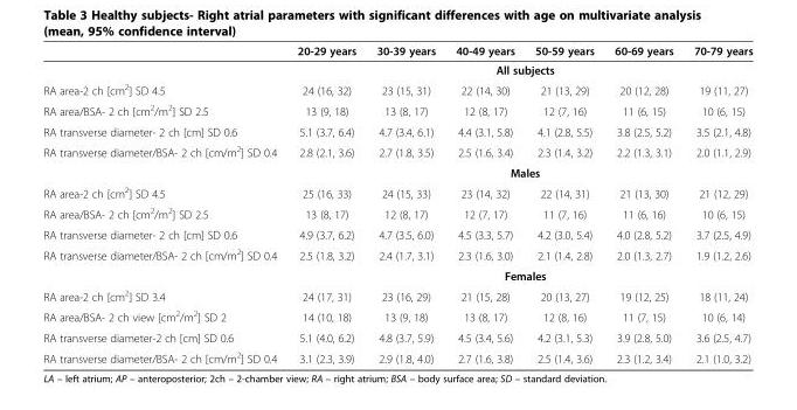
<table><thead><tr><td></td><td>20-29 years</td><td>30-39 years</td><td>40-49 years</td><td>50-59 years</td><td>60-69 years</td><td>70-79 years</td></tr></thead><tbody><tr><td></td><td colspan="6">All subjects</td></tr><tr><td>RA area-2 ch [cm<sup>2</sup>] SD 4.5</td><td>24 (16, 32)</td><td>23 (15, 31)</td><td>22 (14, 30)</td><td>21 (13, 29)</td><td>20 (12, 28)</td><td>19 (11, 27)</td></tr><tr><td>RA area/BSA- 2 ch [cm<sup>2</sup>/m<sup>2</sup>] SD 2.5</td><td>13 (9, 18)</td><td>13 (8, 17)</td><td>12 (8, 17)</td><td>12 (7, 16)</td><td>11 (6, 15)</td><td>10 (6, 15)</td></tr><tr><td>RA transverse diameter- 2 ch [cm] SD 0.6</td><td>5.1 (3.7, 6.4)</td><td>4.7 (3.4, 6.1)</td><td>4.4 (3.1, 5.8)</td><td>4.1 (2.8, 5.5)</td><td>3.8 (2.5, 5.2)</td><td>3.5 (2.1, 4.8)</td></tr><tr><td rowspan="2">RA transverse diameter/BSA- 2 ch [cm/m<sup>2</sup>] SD 0.4</td><td>2.8 (2.1, 3.6)</td><td>2.7 (1.8, 3.5)</td><td>2.5 (1.6, 3.4)</td><td>2.3 (1.4, 3.2)</td><td>2.2 (1.3, 3.1)</td><td>2.0 (1.1, 2.9)</td></tr><tr><td colspan="6">Males</td></tr><tr><td>RA area-2 ch [cm<sup>2</sup>] SD 4.5</td><td>25 (16, 33)</td><td>24 (15, 33)</td><td>23 (14, 32)</td><td>22 (14, 31)</td><td>21 (13, 30)</td><td>21 (12, 29)</td></tr><tr><td>RA area/BSA- 2 ch [cm<sup>2</sup>/m<sup>2</sup>] SD 2.5</td><td>13 (8, 17)</td><td>12 (8, 17)</td><td>12 (7, 17)</td><td>11 (7, 16)</td><td>11 (6, 16)</td><td>10 (6, 15)</td></tr><tr><td>RA transverse diameter- 2 ch [cm] SD 0.6</td><td>4.9 (3.7, 6.2)</td><td>4.7 (3.5, 6.0)</td><td>4.5 (3.3, 5.7)</td><td>4.2 (3.0, 5.4)</td><td>4.0 (2.8, 5.2)</td><td>3.7 (2.5, 4.9)</td></tr><tr><td rowspan="2">RA transverse diameter/BSA- 2 ch [cm/m<sup>2</sup>] SD 0.4</td><td>2.5 (1.8, 3.2)</td><td>2.4 (1.7, 3.1)</td><td>2.3 (1.6, 3.0)</td><td>2.1 (1.4, 2.8)</td><td>2.0 (1.3, 2.7)</td><td>1.9 (1.2, 2.6)</td></tr><tr><td colspan="6">Females</td></tr><tr><td>RA area-2 ch [cm<sup>2</sup>] SD 3.4</td><td>24 (17, 31)</td><td>23 (16, 29)</td><td>21 (15, 28)</td><td>20 (13, 27)</td><td>19 (12, 25)</td><td>18 (11, 24)</td></tr><tr><td>RA area/BSA- 2 ch view [cm<sup>2</sup>/m<sup>2</sup>] SD 2</td><td>14 (10, 18)</td><td>13 (9, 18)</td><td>13 (8, 17)</td><td>12 (8, 16)</td><td>11 (7, 15)</td><td>10 (6, 14)</td></tr><tr><td>RA transverse diameter-2 ch [cm] SD 0.6</td><td>5.1 (4.0, 6.2)</td><td>4.8 (3.7, 5.9)</td><td>4.5 (3.4, 5.6)</td><td>4.2 (3.1, 5.3)</td><td>3.9 (2.8, 5.0)</td><td>3.6 (2.5, 4.7)</td></tr><tr><td>RA transverse diameter/BSA- 2 ch [cm/m<sup>2</sup>] SD 0.4</td><td>3.1 (2.3, 3.9)</td><td>2.9 (1.8, 4.0)</td><td>2.7 (1.6, 3.8)</td><td>2.5 (1.4, 3.6)</td><td>2.3 (1.2, 3.4)</td><td>2.1 (1.0, 3.2)</td></tr></tbody></table>